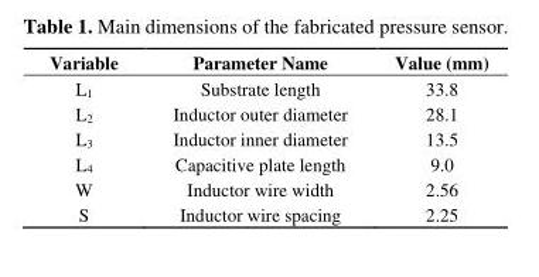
<table><thead><tr><td>Variable</td><td>Parameter Name</td><td>Value (mm)</td></tr></thead><tbody><tr><td>L<sub>1</sub></td><td>Substrate length</td><td>33.8</td></tr><tr><td>L<sub>2</sub></td><td>Inductor outer diameter</td><td>28.1</td></tr><tr><td>L<sub>3</sub></td><td>Inductor inner diameter</td><td>13.5</td></tr><tr><td>L<sub>4</sub></td><td>Capacitive plate length</td><td>9.0</td></tr><tr><td>W</td><td>Inductor wire width</td><td>2.56</td></tr><tr><td>S</td><td>Inductor wire spacing</td><td>2.25</td></tr></tbody></table>